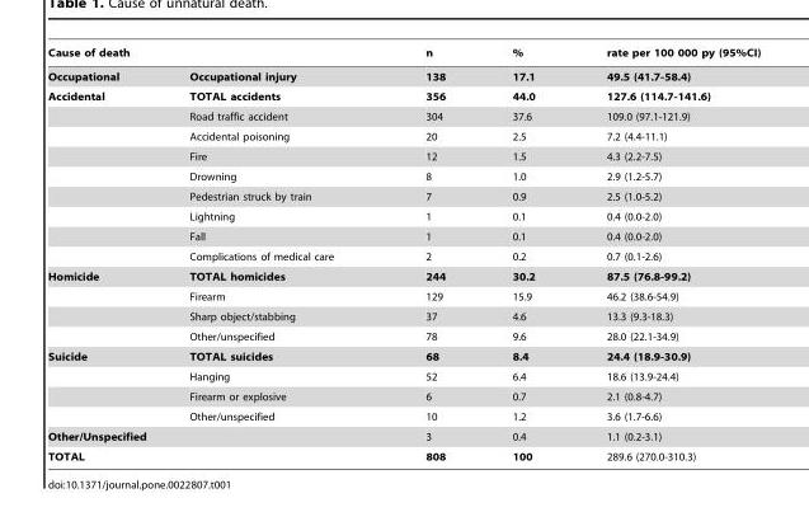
<table><thead><tr><td colspan="2">Cause of death</td><td rowspan="2">n 138</td><td rowspan="2">% 17.1</td><td rowspan="2">rate per 100 000 py (95%CI) 49.5 (41.7-58.4)</td></tr><tr><td>Occupational</td><td>Occupational injury</td></tr></thead><tbody><tr><td rowspan="9">Accidental</td><td>TOTAL accidents</td><td>356</td><td>44.0</td><td>127.6 (114.7-141.6)</td></tr><tr><td>Road traffic accident</td><td>304</td><td>37.6</td><td>109.0 (97.1-121.9)</td></tr><tr><td>Accidental poisoning</td><td>20</td><td>2.5</td><td>7.2 (4.4-11.1)</td></tr><tr><td>Fire</td><td>12</td><td>1.5</td><td>4.3 (2.2-7.5)</td></tr><tr><td>Drowning</td><td>8</td><td>1.0</td><td>2.9 (1.2-5.7)</td></tr><tr><td>Pedestrian struck by train</td><td>7</td><td>0.9</td><td>2.5 (1.0-5.2)</td></tr><tr><td>Lightning</td><td>1</td><td>0.1</td><td>0.4 (0.0-2.0)</td></tr><tr><td>Fall</td><td>1</td><td>0.1</td><td>0.4 (0.0-2.0)</td></tr><tr><td>Complications of medical care</td><td>2</td><td>0.2</td><td>0.7 (0.1-2.6)</td></tr><tr><td rowspan="4">Homicide</td><td>TOTAL homicides</td><td>244</td><td>30.2</td><td>87.5 (76.8-99.2)</td></tr><tr><td>Firearm</td><td>129</td><td>15.9</td><td>46.2 (38.6-54.9)</td></tr><tr><td>Sharp object/stabbing</td><td>37</td><td>4.6</td><td>13.3 (9.3-18.3)</td></tr><tr><td>Other/unspecified</td><td>78</td><td>9.6</td><td>28.0 (22.1-34.9)</td></tr><tr><td rowspan="4">Suicide</td><td>TOTAL suicides</td><td>68</td><td>8.4</td><td>24.4 (18.9-30.9)</td></tr><tr><td>Hanging</td><td>52</td><td>6.4</td><td>18.6 (13.9-24.4)</td></tr><tr><td>Firearm or explosive</td><td>6</td><td>0.7</td><td>2.1 (0.8-4.7)</td></tr><tr><td>Other/unspecified</td><td>10</td><td>1.2</td><td>3.6 (1.7-6.6)</td></tr><tr><td colspan="2">Other/Unspecified</td><td>3</td><td>0.4</td><td>1.1 (0.2-3.1)</td></tr><tr><td colspan="2">TOTAL</td><td>808</td><td>100</td><td>289.6 (270.0-310.3)</td></tr></tbody></table>